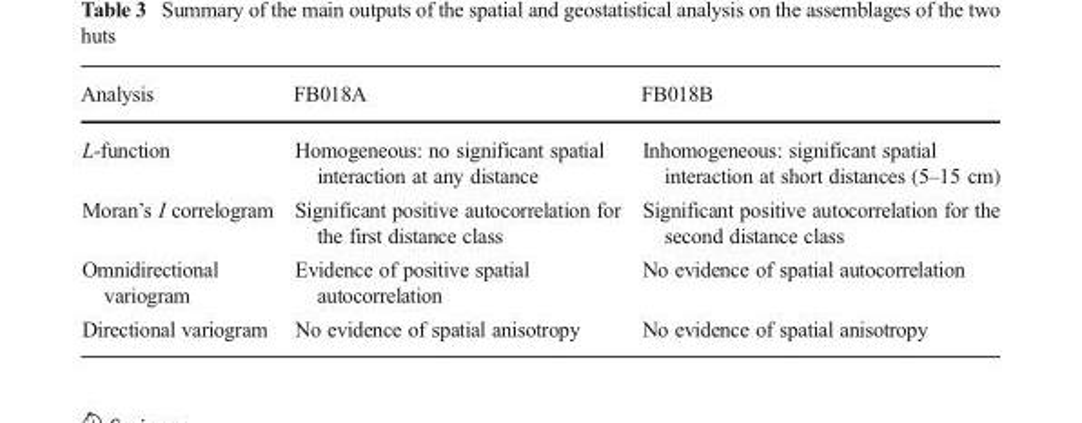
<table><thead><tr><td>Analysis</td><td>FB018A</td><td>FB018B</td></tr></thead><tbody><tr><td>L-function</td><td>Homogeneous: no significant spatial interaction at any distance</td><td>Inhomogeneous: significant spatial interaction at short distances (5–15 cm)</td></tr><tr><td>Moran’s I correlogram</td><td>Significant positive autocorrelation for the first distance class</td><td>Significant positive autocorrelation for the second distance class</td></tr><tr><td>Omnidirectional variogram</td><td>Evidence of positive spatial autocorrelation</td><td>No evidence of spatial autocorrelation</td></tr><tr><td>Directional variogram</td><td>No evidence of spatial anisotropy</td><td>No evidence of spatial anisotropy</td></tr></tbody></table>